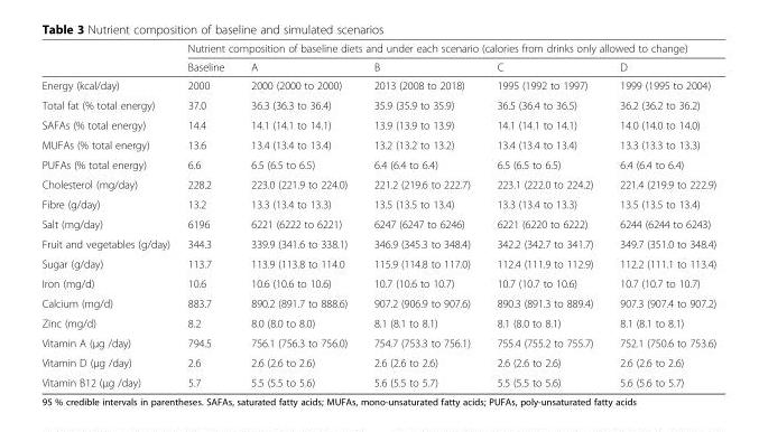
<table><thead><tr><td rowspan="2"></td><td colspan="5">Nutrient composition of baseline diets and under each scenario (calories from drinks only allowed to change)</td></tr><tr><td>Baseline</td><td>A</td><td>B</td><td>C</td><td>D</td></tr></thead><tbody><tr><td>Energy (kcal/day)</td><td>2000</td><td>2000 (2000 to 2000)</td><td>2013 (2008 to 2018)</td><td>1995 (1992 to 1997)</td><td>1999 (1995 to 2004)</td></tr><tr><td>Total fat (% total energy)</td><td>37.0</td><td>36.3 (36.3 to 36.4)</td><td>35.9 (35.9 to 35.9)</td><td>36.5 (36.4 to 36.5)</td><td>36.2 (36.2 to 36.2)</td></tr><tr><td>SAFAs (% total energy)</td><td>14.4</td><td>14.1 (14.1 to 14.1)</td><td>13.9 (13.9 to 13.9)</td><td>14.1 (14.1 to 14.1)</td><td>14.0 (14.0 to 14.0)</td></tr><tr><td>MUFAs (% total energy)</td><td>13.6</td><td>13.4 (13.4 to 13.4)</td><td>13.2 (13.2 to 13.2)</td><td>13.4 (13.4 to 13.4)</td><td>13.3 (13.3 to 13.3)</td></tr><tr><td>PUFAs (% total energy)</td><td>6.6</td><td>6.5 (6.5 to 6.5)</td><td>6.4 (6.4 to 6.4)</td><td>6.5 (6.5 to 6.5)</td><td>6.4 (6.4 to 6.4)</td></tr><tr><td>Cholesterol (mg/day)</td><td>228.2</td><td>223.0 (221.9 to 224.0)</td><td>221.2 (219.6 to 222.7)</td><td>223.1 (222.0 to 224.2)</td><td>221.4 (219.9 to 222.9)</td></tr><tr><td>Fibre (g/day)</td><td>13.2</td><td>13.3 (13.4 to 13.3)</td><td>13.5 (13.5 to 13.4)</td><td>13.3 (13.4 to 13.3)</td><td>13.5 (13.5 to 13.4)</td></tr><tr><td>Salt (mg/day)</td><td>6196</td><td>6221 (6222 to 6221)</td><td>6247 (6247 to 6246)</td><td>6221 (6220 to 6222)</td><td>6244 (6244 to 6243)</td></tr><tr><td>Fruit and vegetables (g/day)</td><td>344.3</td><td>339.9 (341.6 to 338.1)</td><td>346.9 (345.3 to 348.4)</td><td>342.2 (342.7 to 341.7)</td><td>349.7 (351.0 to 348.4)</td></tr><tr><td>Sugar (g/day)</td><td>113.7</td><td>113.9 (113.8 to 114.0</td><td>115.9 (114.8 to 117.0)</td><td>112.4 (111.9 to 112.9)</td><td>112.2 (111.1 to 113.4)</td></tr><tr><td>Iron (mg/d)</td><td>10.6</td><td>10.6 (10.6 to 10.6)</td><td>10.7 (10.6 to 10.7)</td><td>10.7 (10.7 to 10.6)</td><td>10.7 (10.7 to 10.7)</td></tr><tr><td>Calcium (mg/d)</td><td>883.7</td><td>890.2 (891.7 to 888.6)</td><td>907.2 (906.9 to 907.6)</td><td>890.3 (891.3 to 889.4)</td><td>907.3 (907.4 to 907.2)</td></tr><tr><td>Zinc (mg/d)</td><td>8.2</td><td>8.0 (8.0 to 8.0)</td><td>8.1 (8.1 to 8.1)</td><td>8.1 (8.0 to 8.1)</td><td>8.1 (8.1 to 8.1)</td></tr><tr><td>Vitamin A (μg /day)</td><td>794.5</td><td>756.1 (756.3 to 756.0)</td><td>754.7 (753.3 to 756.1)</td><td>755.4 (755.2 to 755.7)</td><td>752.1 (750.6 to 753.6)</td></tr><tr><td>Vitamin D (μg /day)</td><td>2.6</td><td>2.6 (2.6 to 2.6)</td><td>2.6 (2.6 to 2.6)</td><td>2.6 (2.6 to 2.6)</td><td>2.6 (2.6 to 2.6)</td></tr><tr><td>Vitamin B12 (μg /day)</td><td>5.7</td><td>5.5 (5.5 to 5.6)</td><td>5.6 (5.5 to 5.7)</td><td>5.5 (5.5 to 5.6)</td><td>5.6 (5.6 to 5.7)</td></tr></tbody></table>